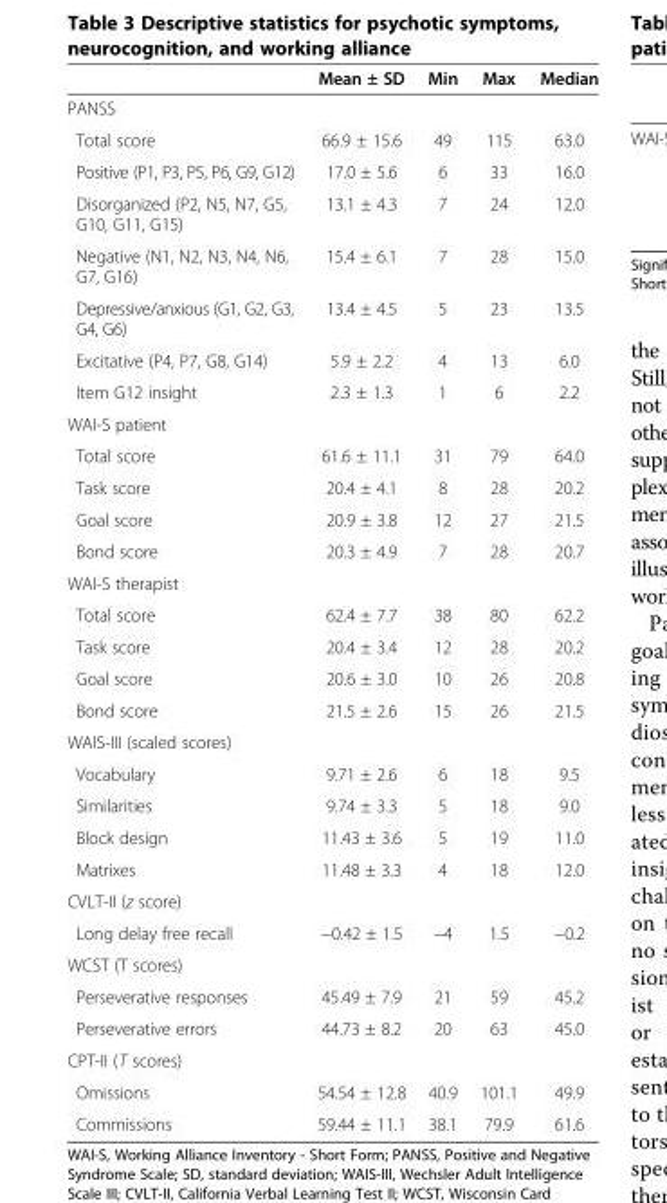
<table><thead><tr><td></td><td>Mean ± SD</td><td>Min</td><td>Max</td><td>Median</td></tr></thead><tbody><tr><td colspan="5">PANSS</td></tr><tr><td>Total score</td><td>66.9 ± 15.6</td><td>49</td><td>115</td><td>63.0</td></tr><tr><td>Positive (P1, P3, P5, P6, G9, G12)</td><td>17.0 ± 5.6</td><td>6</td><td>33</td><td>16.0</td></tr><tr><td>Disorganized (P2, N5, N7, G5, G10, G11, G15)</td><td>13.1 ± 4.3</td><td>7</td><td>24</td><td>12.0</td></tr><tr><td>Negative (N1, N2, N3, N4, N6, G7, G16)</td><td>15.4 ± 6.1</td><td>7</td><td>28</td><td>15.0</td></tr><tr><td>Depressive/anxious (G1, G2, G3, G4, G6)</td><td>13.4 ± 4.5</td><td>5</td><td>23</td><td>13.5</td></tr><tr><td>Excitative (P4, P7, G8, G14)</td><td>5.9 ± 2.2</td><td>4</td><td>13</td><td>6.0</td></tr><tr><td>Item G12 insight</td><td>2.3 ± 1.3</td><td>1</td><td>6</td><td>2.2</td></tr><tr><td colspan="5">WAI-S patient</td></tr><tr><td>Total score</td><td>61.6 ± 11.1</td><td>31</td><td>79</td><td>64.0</td></tr><tr><td>Task score</td><td>20.4 ± 4.1</td><td>8</td><td>28</td><td>20.2</td></tr><tr><td>Goal score</td><td>20.9 ± 3.8</td><td>12</td><td>27</td><td>21.5</td></tr><tr><td>Bond score</td><td>20.3 ± 4.9</td><td>7</td><td>28</td><td>20.7</td></tr><tr><td colspan="5">WAI-S therapist</td></tr><tr><td>Total score</td><td>62.4 ± 7.7</td><td>38</td><td>80</td><td>62.2</td></tr><tr><td>Task score</td><td>20.4 ± 3.4</td><td>12</td><td>28</td><td>20.2</td></tr><tr><td>Goal score</td><td>20.6 ± 3.0</td><td>10</td><td>26</td><td>20.8</td></tr><tr><td>Bond score</td><td>21.5 ± 2.6</td><td>15</td><td>26</td><td>21.5</td></tr><tr><td colspan="5">WAIS-III (scaled scores)</td></tr><tr><td>Vocabulary</td><td>9.71 ± 2.6</td><td>6</td><td>18</td><td>9.5</td></tr><tr><td>Similarities</td><td>9.74 ± 3.3</td><td>5</td><td>18</td><td>9.0</td></tr><tr><td>Block design</td><td>11.43 ± 3.6</td><td>5</td><td>19</td><td>11.0</td></tr><tr><td>Matrixes</td><td>11.48 ± 3.3</td><td>4</td><td>18</td><td>12.0</td></tr><tr><td colspan="5">CVLT-II (z score)</td></tr><tr><td>Long delay free recall</td><td>−0.42 ± 1.5</td><td>−4</td><td>1.5</td><td>−0.2</td></tr><tr><td colspan="5">WCST (T scores)</td></tr><tr><td>Perseverative responses</td><td>45.49 ± 7.9</td><td>21</td><td>59</td><td>45.2</td></tr><tr><td>Perseverative errors</td><td>44.73 ± 8.2</td><td>20</td><td>63</td><td>45.0</td></tr><tr><td colspan="5">CPT-II (T scores)</td></tr><tr><td>Omissions</td><td>54.54 ± 12.8</td><td>40.9</td><td>101.1</td><td>49.9</td></tr><tr><td>Commissions</td><td>59.44 ± 11.1</td><td>38.1</td><td>79.9</td><td>61.6</td></tr></tbody></table>